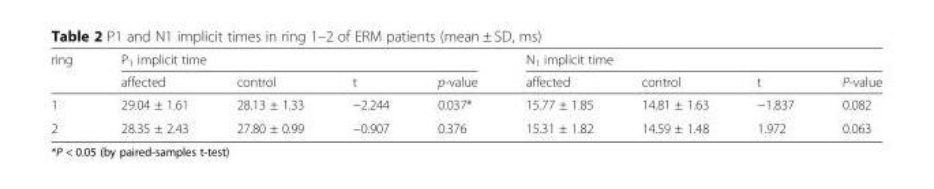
<table><thead><tr><td rowspan="2">ring</td><td colspan="4">P<sub>1</sub> implicit time</td><td colspan="4">N<sub>1</sub> implicit time</td></tr><tr><td>affected</td><td>control</td><td>t</td><td>p-value</td><td>affected</td><td>control</td><td>t</td><td>P-value</td></tr></thead><tbody><tr><td>1</td><td>29.04 ± 1.61</td><td>28.13 ± 1.33</td><td>−2.244</td><td>0.037*</td><td>15.77 ± 1.85</td><td>14.81 ± 1.63</td><td>−1.837</td><td>0.082</td></tr><tr><td>2</td><td>28.35 ± 2.43</td><td>27.80 ± 0.99</td><td>−0.907</td><td>0.376</td><td>15.31 ± 1.82</td><td>14.59 ± 1.48</td><td>1.972</td><td>0.063</td></tr></tbody></table>